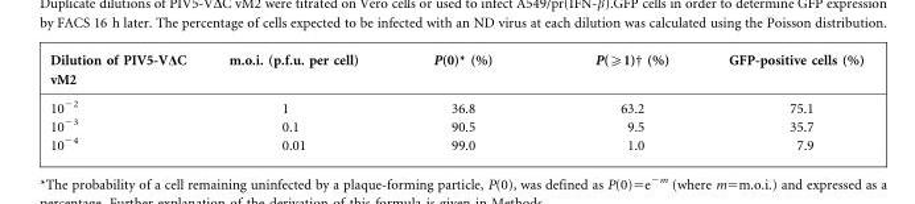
<table><thead><tr><td>Dilution of PIV5-VΔC vM2</td><td>m.o.i. (p.f.u. per cell)</td><td>P(0)* (%)</td><td>P(≥1)† (%)</td><td>GFP-positive cells (%)</td></tr></thead><tbody><tr><td>10<sup>−2</sup></td><td>1</td><td>36.8</td><td>63.2</td><td>75.1</td></tr><tr><td>10<sup>−3</sup></td><td>0.1</td><td>90.5</td><td>9.5</td><td>35.7</td></tr><tr><td>10<sup>−4</sup></td><td>0.01</td><td>99.0</td><td>1.0</td><td>7.9</td></tr></tbody></table>